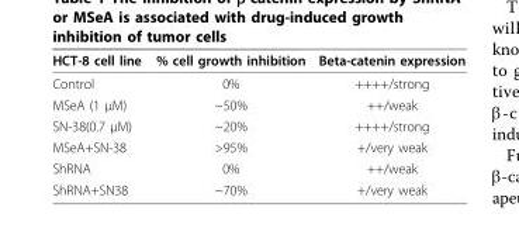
<table><thead><tr><td>HCT-8 cell line</td><td>% cell growth inhibition</td><td>Beta-catenin expression</td></tr></thead><tbody><tr><td>Control</td><td>0%</td><td>++++/strong</td></tr><tr><td>MSeA (1 μM)</td><td>~50%</td><td>++/weak</td></tr><tr><td>SN-38(0.7 μM)</td><td>~20%</td><td>++++/strong</td></tr><tr><td>MSeA+SN-38</td><td>&gt;95%</td><td>+/very weak</td></tr><tr><td>ShRNA</td><td>0%</td><td>++/weak</td></tr><tr><td>ShRNA+SN38</td><td>~70%</td><td>+/very weak</td></tr></tbody></table>